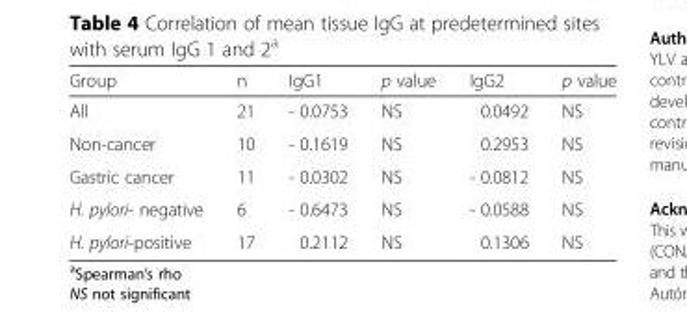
<table><thead><tr><td>Group</td><td>n</td><td>IgG1</td><td>p value</td><td>IgG2</td><td>p value</td></tr></thead><tbody><tr><td>All</td><td>21</td><td>- 0.0753</td><td>NS</td><td>0.0492</td><td>NS</td></tr><tr><td>Non-cancer</td><td>10</td><td>- 0.1619</td><td>NS</td><td>0.2953</td><td>NS</td></tr><tr><td>Gastric cancer</td><td>11</td><td>- 0.0302</td><td>NS</td><td>- 0.0812</td><td>NS</td></tr><tr><td>H. pylori- negative</td><td>6</td><td>- 0.6473</td><td>NS</td><td>- 0.0588</td><td>NS</td></tr><tr><td>H. pylori-positive</td><td>17</td><td>0.2112</td><td>NS</td><td>0.1306</td><td>NS</td></tr></tbody></table>